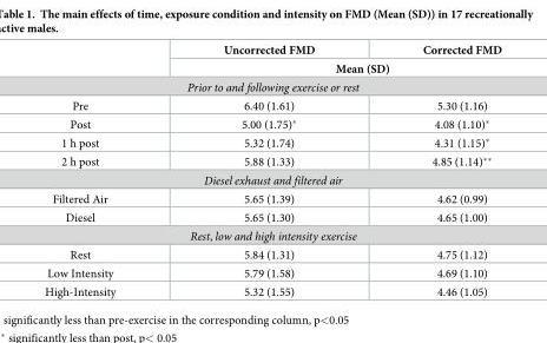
<table><thead><tr><td rowspan="2"></td><td>Uncorrected FMD</td><td>Corrected FMD</td></tr><tr><td colspan="2">Mean (SD)</td></tr></thead><tbody><tr><td colspan="3">Prior to and following exercise or rest</td></tr><tr><td>Pre</td><td>6.40 (1.61)</td><td>5.30 (1.16)</td></tr><tr><td>Post</td><td>5.00 (1.75)*</td><td>4.08 (1.10)*</td></tr><tr><td>1 h post</td><td>5.32 (1.74)</td><td>4.31 (1.15)*</td></tr><tr><td>2 h post</td><td>5.88 (1.33)</td><td>4.85 (1.14)**</td></tr><tr><td colspan="3">Diesel exhaust and filtered air</td></tr><tr><td>Filtered Air</td><td>5.65 (1.39)</td><td>4.62 (0.99)</td></tr><tr><td>Diesel</td><td>5.65 (1.30)</td><td>4.65 (1.00)</td></tr><tr><td colspan="3">Rest, low and high intensity exercise</td></tr><tr><td>Rest</td><td>5.84 (1.31)</td><td>4.75 (1.12)</td></tr><tr><td>Low Intensity</td><td>5.79 (1.58)</td><td>4.69 (1.10)</td></tr><tr><td>High-Intensity</td><td>5.32 (1.55)</td><td>4.46 (1.05)</td></tr></tbody></table>